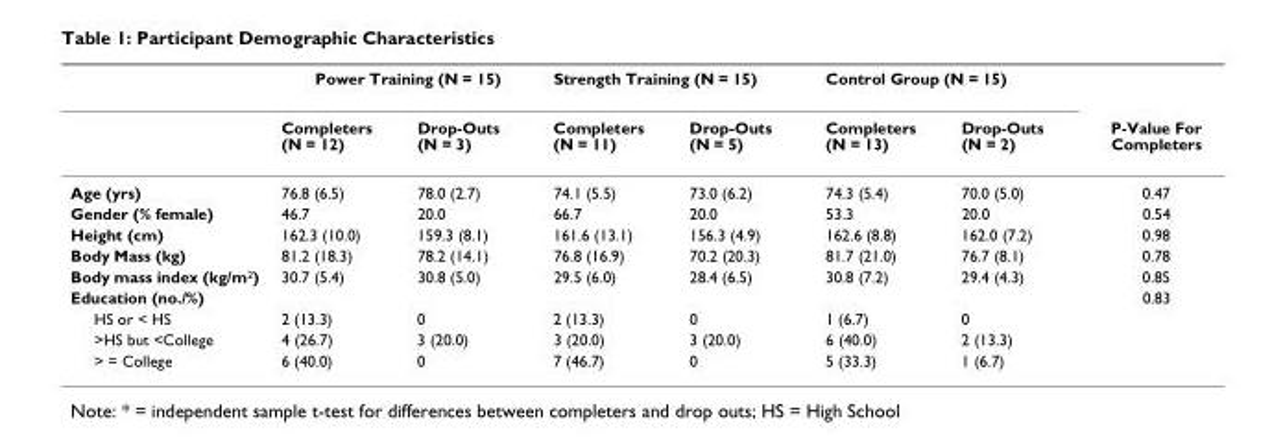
<table><thead><tr><td rowspan="2"></td><td colspan="2">Power Training (N = 15)</td><td colspan="2">Strength Training (N = 15)</td><td colspan="2">Control Group (N = 15)</td><td rowspan="2">P-Value For Completers</td></tr><tr><td>Completers (N = 12)</td><td>Drop-Outs (N = 3)</td><td>Completers (N = 11)</td><td>Drop-Outs (N = 5)</td><td>Completers (N = 13)</td><td>Drop-Outs (N = 2)</td></tr></thead><tbody><tr><td>Age (yrs)</td><td>76.8 (6.5)</td><td>78.0 (2.7)</td><td>74.1 (5.5)</td><td>73.0 (6.2)</td><td>74.3 (5.4)</td><td>70.0 (5.0)</td><td>0.47</td></tr><tr><td>Gender (% female)</td><td>46.7</td><td>20.0</td><td>66.7</td><td>20.0</td><td>53.3</td><td>20.0</td><td>0.54</td></tr><tr><td>Height (cm)</td><td>162.3 (10.0)</td><td>159.3 (8.1)</td><td>161.6 (13.1)</td><td>156.3 (4.9)</td><td>162.6 (8.8)</td><td>162.0 (7.2)</td><td>0.98</td></tr><tr><td>Body Mass (kg)</td><td>81.2 (18.3)</td><td>78.2 (14.1)</td><td>76.8 (16.9)</td><td>70.2 (20.3)</td><td>81.7 (21.0)</td><td>76.7 (8.1)</td><td>0.78</td></tr><tr><td>Body mass index (kg/m<sup>2</sup>)</td><td>30.7 (5.4)</td><td>30.8 (5.0)</td><td>29.5 (6.0)</td><td>28.4 (6.5)</td><td>30.8 (7.2)</td><td>29.4 (4.3)</td><td>0.85</td></tr><tr><td>Education (no./%)</td><td></td><td></td><td></td><td></td><td></td><td></td><td>0.83</td></tr><tr><td>HS or &lt; HS</td><td>2 (13.3)</td><td>0</td><td>2 (13.3)</td><td>0</td><td>1 (6.7)</td><td>0</td><td></td></tr><tr><td>&gt;HS but &lt;College</td><td>4 (26.7)</td><td>3 (20.0)</td><td>3 (20.0)</td><td>3 (20.0)</td><td>6 (40.0)</td><td>2 (13.3)</td><td></td></tr><tr><td>&gt; = College</td><td>6 (40.0)</td><td>0</td><td>7 (46.7)</td><td>0</td><td>5 (33.3)</td><td>1 (6.7)</td><td></td></tr></tbody></table>